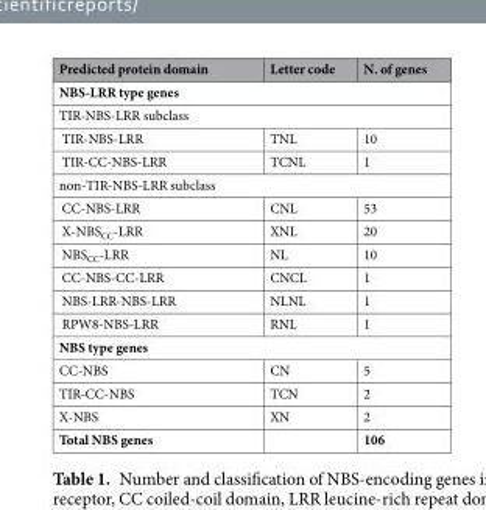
<table><thead><tr><td>Predicted protein domain</td><td>Letter code</td><td>N. of genes</td></tr></thead><tbody><tr><td colspan="3">NBS-LRR type genes</td></tr><tr><td colspan="3">TIR-NBS-LRR subclass</td></tr><tr><td>TIR-NBS-LRR</td><td>TNL</td><td>10</td></tr><tr><td>TIR-CC-NBS-LRR</td><td>TCNL</td><td>1</td></tr><tr><td colspan="3">non-TIR-NBS-LRR subclass</td></tr><tr><td>CC-NBS-LRR</td><td>CNL</td><td>53</td></tr><tr><td>X-NBS<sub>CC</sub>-LRR</td><td>XNL</td><td>20</td></tr><tr><td>NBS<sub>CC</sub>-LRR</td><td>NL</td><td>10</td></tr><tr><td>CC-NBS-CC-LRR</td><td>CNCL</td><td>1</td></tr><tr><td>NBS-LRR-NBS-LRR</td><td>NLNL</td><td>1</td></tr><tr><td>RPW8-NBS-LRR</td><td>RNL</td><td>1</td></tr><tr><td colspan="3">NBS type genes</td></tr><tr><td>CC-NBS</td><td>CN</td><td>5</td></tr><tr><td>TIR-CC-NBS</td><td>TCN</td><td>2</td></tr><tr><td>X-NBS</td><td>XN</td><td>2</td></tr><tr><td>Total NBS genes</td><td></td><td>106</td></tr></tbody></table>